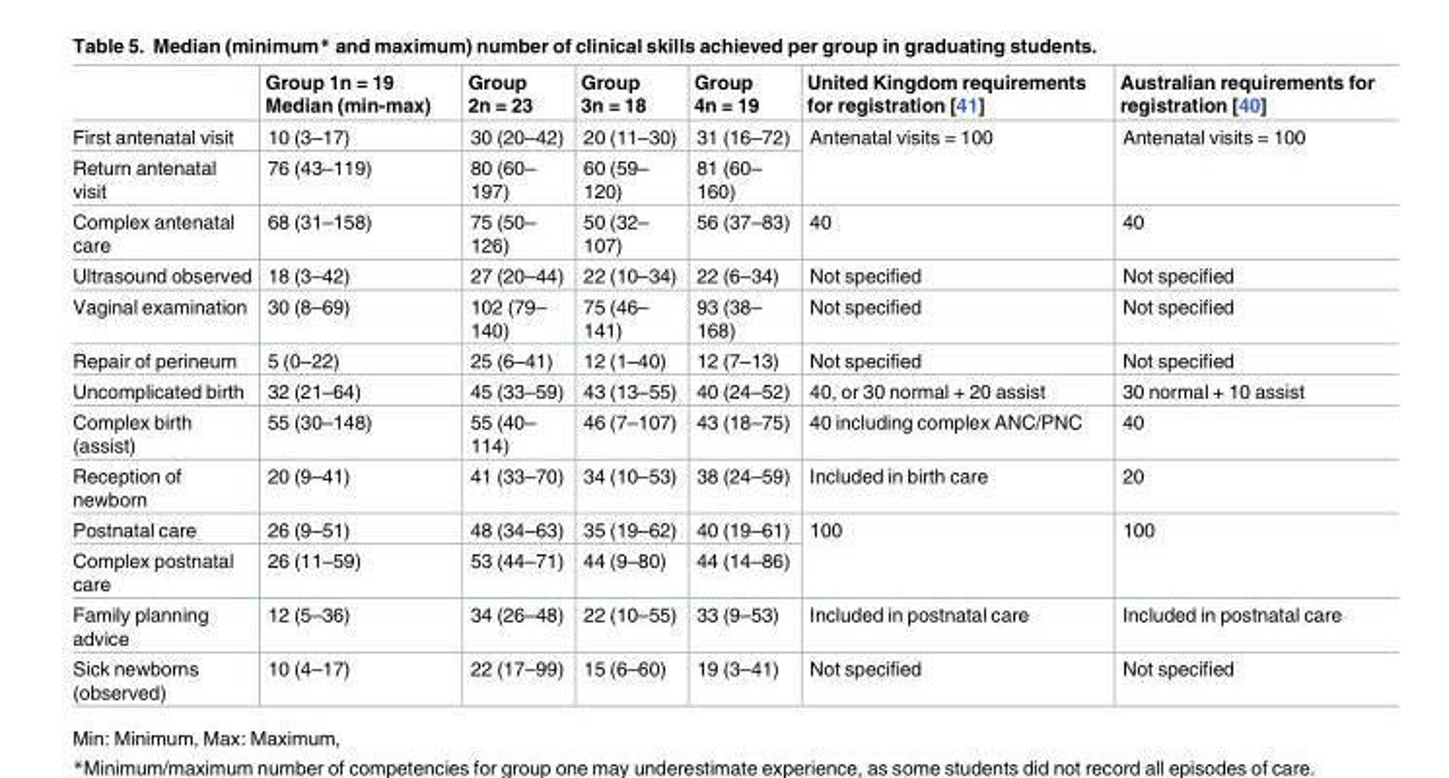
<table><thead><tr><td></td><td>Group 1n = 19 Median (min-max)</td><td>Group 2n = 23</td><td>Group 3n = 18</td><td>Group 4n = 19</td><td>United Kingdom requirements for registration [41]</td><td>Australian requirements for registration [40]</td></tr></thead><tbody><tr><td>First antenatal visit</td><td>10 (3–17)</td><td>30 (20–42)</td><td>20 (11–30)</td><td>31 (16–72)</td><td rowspan="2">Antenatal visits = 100</td><td rowspan="2">Antenatal visits = 100</td></tr><tr><td>Return antenatal visit</td><td>76 (43–119)</td><td>80 (60– 197)</td><td>60 (59– 120)</td><td>81 (60– 160)</td></tr><tr><td>Complex antenatal care</td><td>68 (31–158)</td><td>75 (50– 126)</td><td>50 (32– 107)</td><td>56 (37–83)</td><td>40</td><td>40</td></tr><tr><td>Ultrasound observed</td><td>18 (3–42)</td><td>27 (20–44)</td><td>22 (10–34)</td><td>22 (6–34)</td><td>Not specified</td><td>Not specified</td></tr><tr><td>Vaginal examination</td><td>30 (8–69)</td><td>102 (79– 140)</td><td>75 (46– 141)</td><td>93 (38– 168)</td><td>Not specified</td><td>Not specified</td></tr><tr><td>Repair of perineum</td><td>5 (0–22)</td><td>25 (6–41)</td><td>12 (1–40)</td><td>12 (7–13)</td><td>Not specified</td><td>Not specified</td></tr><tr><td>Uncomplicated birth</td><td>32 (21–64)</td><td>45 (33–59)</td><td>43 (13–55)</td><td>40 (24–52)</td><td>40, or 30 normal + 20 assist</td><td>30 normal + 10 assist</td></tr><tr><td>Complex birth (assist)</td><td>55 (30–148)</td><td>55 (40– 114)</td><td>46 (7–107)</td><td>43 (18–75)</td><td>40 including complex ANC/PNC</td><td>40</td></tr><tr><td>Reception of newborn</td><td>20 (9–41)</td><td>41 (33–70)</td><td>34 (10–53)</td><td>38 (24–59)</td><td>Included in birth care</td><td>20</td></tr><tr><td>Postnatal care</td><td>26 (9–51)</td><td>48 (34–63)</td><td>35 (19–62)</td><td>40 (19–61)</td><td rowspan="2">100</td><td rowspan="2">100</td></tr><tr><td>Complex postnatal care</td><td>26 (11–59)</td><td>53 (44–71)</td><td>44 (9–80)</td><td>44 (14–86)</td></tr><tr><td>Family planning advice</td><td>12 (5–36)</td><td>34 (26–48)</td><td>22 (10–55)</td><td>33 (9–53)</td><td>Included in postnatal care</td><td>Included in postnatal care</td></tr><tr><td>Sick newborns (observed)</td><td>10 (4–17)</td><td>22 (17–99)</td><td>15 (6–60)</td><td>19 (3–41)</td><td>Not specified</td><td>Not specified</td></tr></tbody></table>